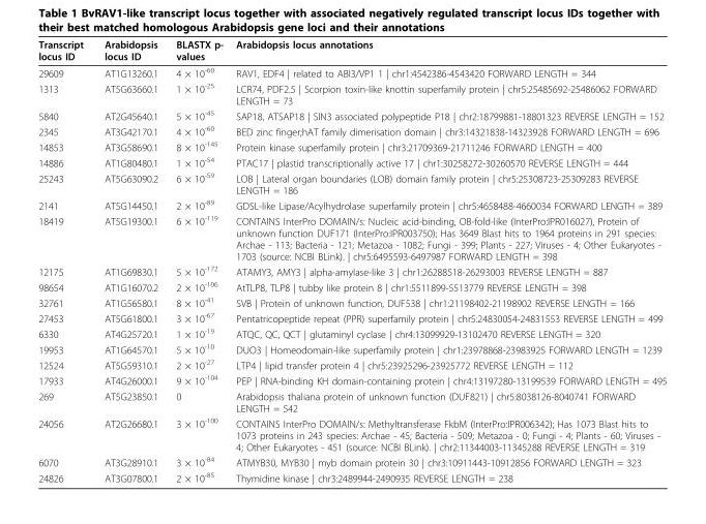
<table><thead><tr><td>Transcript locus ID</td><td>Arabidopsis locus ID</td><td>BLASTX p- values</td><td>Arabidopsis locus annotations</td></tr></thead><tbody><tr><td>29609</td><td>AT1G13260.1</td><td>4 × 10<sup>-60</sup></td><td>RAV1, EDF4 | related to ABI3/VP1 1 | chr1:4542386-4543420 FORWARD LENGTH = 344</td></tr><tr><td>1313</td><td>AT5G63660.1</td><td>1 × 10<sup>-25</sup></td><td>LCR74, PDF2.5 | Scorpion toxin-like knottin superfamily protein | chr5:25485692-25486062 FORWARD LENGTH = 73</td></tr><tr><td>5840</td><td>AT2G45640.1</td><td>5 × 10<sup>-45</sup></td><td>SAP18, ATSAP18 | SIN3 associated polypeptide P18 | chr2:18799881-18801323 REVERSE LENGTH = 152</td></tr><tr><td>2345</td><td>AT3G42170.1</td><td>4 × 10<sup>-60</sup></td><td>BED zinc finger;hAT family dimerisation domain | chr3:14321838-14323928 FORWARD LENGTH = 696</td></tr><tr><td>14853</td><td>AT3G58690.1</td><td>8 × 10<sup>-145</sup></td><td>Protein kinase superfamily protein | chr3:21709369-21711246 FORWARD LENGTH = 400</td></tr><tr><td>14886</td><td>AT1G80480.1</td><td>1 × 10<sup>-54</sup></td><td>PTAC17 | plastid transcriptionally active 17 | chr1:30258272-30260570 REVERSE LENGTH = 444</td></tr><tr><td>25243</td><td>AT5G63090.2</td><td>6 × 10<sup>-59</sup></td><td>LOB | Lateral organ boundaries (LOB) domain family protein | chr5:25308723-25309283 REVERSE LENGTH = 186</td></tr><tr><td>2141</td><td>AT5G14450.1</td><td>2 × 10<sup>-89</sup></td><td>GDSL-like Lipase/Acylhydrolase superfamily protein | chr5:4658488-4660034 FORWARD LENGTH = 389</td></tr><tr><td>18419</td><td>AT5G19300.1</td><td>6 × 10<sup>-119</sup></td><td>CONTAINS InterPro DOMAIN/s: Nucleic acid-binding, OB-fold-like (InterPro:IPR016027), Protein of unknown function DUF171 (InterPro:IPR003750); Has 3649 Blast hits to 1964 proteins in 291 species: Archae - 113; Bacteria - 121; Metazoa - 1082; Fungi - 399; Plants - 227; Viruses - 4; Other Eukaryotes - 1703 (source: NCBI BLink). | chr5:6495593-6497987 FORWARD LENGTH = 398</td></tr><tr><td>12175</td><td>AT1G69830.1</td><td>5 × 10<sup>-172</sup></td><td>ATAMY3, AMY3 | alpha-amylase-like 3 | chr1:26288518-26293003 REVERSE LENGTH = 887</td></tr><tr><td>98654</td><td>AT1G16070.2</td><td>2 × 10<sup>-106</sup></td><td>AtTLP8, TLP8 | tubby like protein 8 | chr1:5511899-5513779 REVERSE LENGTH = 398</td></tr><tr><td>32761</td><td>AT1G56580.1</td><td>8 × 10<sup>-41</sup></td><td>SVB | Protein of unknown function, DUF538 | chr1:21198402-21198902 REVERSE LENGTH = 166</td></tr><tr><td>27453</td><td>AT5G61800.1</td><td>3 × 10<sup>-67</sup></td><td>Pentatricopeptide repeat (PPR) superfamily protein | chr5:24830054-24831553 REVERSE LENGTH = 499</td></tr><tr><td>6330</td><td>AT4G25720.1</td><td>1 × 10<sup>-19</sup></td><td>ATQC, QC, QCT | glutaminyl cyclase | chr4:13099929-13102470 REVERSE LENGTH = 320</td></tr><tr><td>19953</td><td>AT1G64570.1</td><td>5 × 10<sup>-10</sup></td><td>DUO3 | Homeodomain-like superfamily protein | chr1:23978868-23983925 FORWARD LENGTH = 1239</td></tr><tr><td>12524</td><td>AT5G59310.1</td><td>2 × 10<sup>-27</sup></td><td>LTP4 | lipid transfer protein 4 | chr5:23925296-23925772 REVERSE LENGTH = 112</td></tr><tr><td>17933</td><td>AT4G26000.1</td><td>9 × 10<sup>-104</sup></td><td>PEP | RNA-binding KH domain-containing protein | chr4:13197280-13199539 FORWARD LENGTH = 495</td></tr><tr><td>269</td><td>AT5G23850.1</td><td>0</td><td>Arabidopsis thaliana protein of unknown function (DUF821) | chr5:8038126-8040741 FORWARD LENGTH = 542</td></tr><tr><td>24056</td><td>AT2G26680.1</td><td>3 × 10<sup>-100</sup></td><td>CONTAINS InterPro DOMAIN/s: Methyltransferase FkbM (InterPro:IPR006342); Has 1073 Blast hits to 1073 proteins in 243 species: Archae - 45; Bacteria - 509; Metazoa - 0; Fungi - 4; Plants - 60; Viruses - 4; Other Eukaryotes - 451 (source: NCBI BLink). | chr2:11344003-11345288 REVERSE LENGTH = 319</td></tr><tr><td>6070</td><td>AT3G28910.1</td><td>3 × 10<sup>-84</sup></td><td>ATMYB30, MYB30 | myb domain protein 30 | chr3:10911443-10912856 FORWARD LENGTH = 323</td></tr><tr><td>24826</td><td>AT3G07800.1</td><td>2 × 10<sup>-85</sup></td><td>Thymidine kinase | chr3:2489944-2490935 REVERSE LENGTH = 238</td></tr></tbody></table>